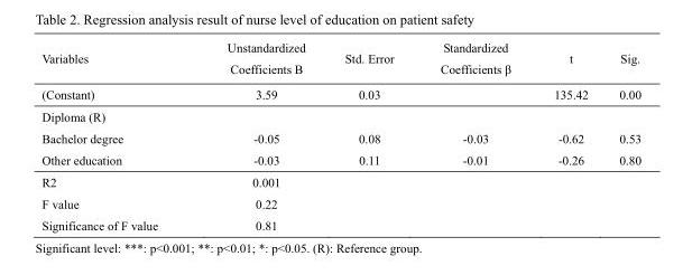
<table><thead><tr><td>Variables</td><td>Unstandardized Coefficients B</td><td>Std. Error</td><td>Standardized Coefficients β</td><td>t</td><td>Sig.</td></tr></thead><tbody><tr><td>(Constant)</td><td>3.59</td><td>0.03</td><td></td><td>135.42</td><td>0.00</td></tr><tr><td colspan="6">Diploma (R)</td></tr><tr><td>Bachelor degree</td><td>-0.05</td><td>0.08</td><td>-0.03</td><td>-0.62</td><td>0.53</td></tr><tr><td>Other education</td><td>-0.03</td><td>0.11</td><td>-0.01</td><td>-0.26</td><td>0.80</td></tr><tr><td>R2</td><td>0.001</td><td></td><td></td><td></td><td></td></tr><tr><td>F value</td><td>0.22</td><td></td><td></td><td></td><td></td></tr><tr><td>Significance of F value</td><td>0.81</td><td></td><td></td><td></td><td></td></tr></tbody></table>